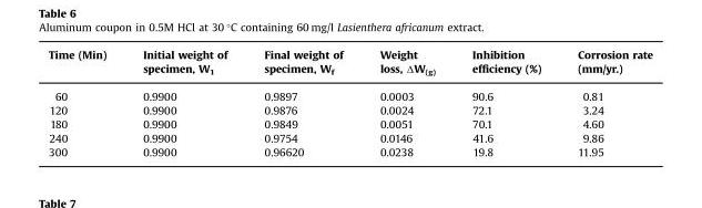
<table><thead><tr><td>Time (Min)</td><td>Initial weight of specimen, W<sub>1</sub></td><td>Final weight of specimen, W<sub>f</sub></td><td>Weight loss, ΔW(g)</td><td>Inhibition efficiency (%)</td><td>Corrosion rate (mm/yr.)</td></tr></thead><tbody><tr><td>60</td><td>0.9900</td><td>0.9897</td><td>0.0003</td><td>90.6</td><td>0.81</td></tr><tr><td>120</td><td>0.9900</td><td>0.9876</td><td>0.0024</td><td>72.1</td><td>3.24</td></tr><tr><td>180</td><td>0.9900</td><td>0.9849</td><td>0.0051</td><td>70.1</td><td>4.60</td></tr><tr><td>240</td><td>0.9900</td><td>0.9754</td><td>0.0146</td><td>41.6</td><td>9.86</td></tr><tr><td>300</td><td>0.9900</td><td>0.96620</td><td>0.0238</td><td>19.8</td><td>11.95</td></tr></tbody></table>